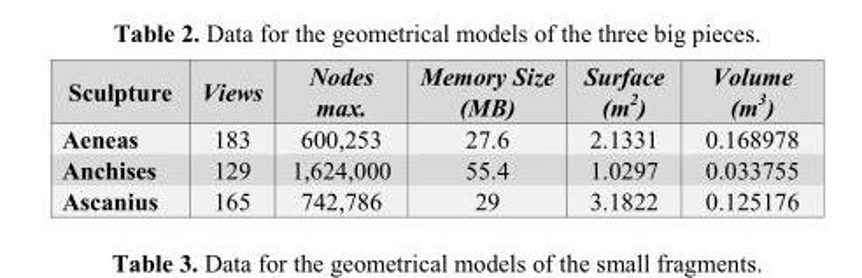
<table><thead><tr><td>Sculpture</td><td>Views</td><td>Nodes max.</td><td>Memory Size (MB)</td><td>Surface (m<sup>2</sup>)</td><td>Volume (m<sup>3</sup>)</td></tr></thead><tbody><tr><td>Aeneas</td><td>183</td><td>600,253</td><td>27.6</td><td>2.1331</td><td>0.168978</td></tr><tr><td>Anchises</td><td>129</td><td>1,624,000</td><td>55.4</td><td>1.0297</td><td>0.033755</td></tr><tr><td>Ascanius</td><td>165</td><td>742,786</td><td>29</td><td>3.1822</td><td>0.125176</td></tr></tbody></table>